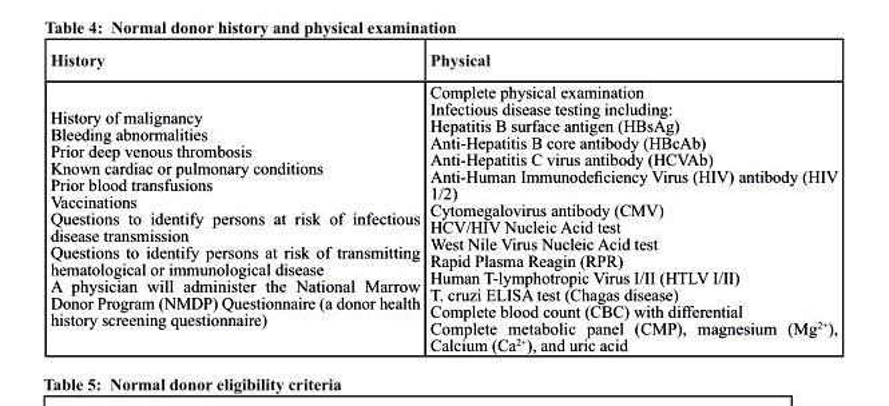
<table><thead><tr><td>History</td><td>Physical</td></tr></thead><tbody><tr><td>History of malignancy Bleeding abnormalities Prior deep venous thrombosis Known cardiac or pulmonary conditions Prior blood transfusions Vaccinations Questions to identify persons at risk of infectious disease transmission Questions to identify persons at risk of transmitting hematological or immunological disease A physician will administer the National Marrow Donor Program (NMDP) Questionnaire (a donor health history screening questionnaire)</td><td>Complete physical examination Infectious disease testing including: Hepatitis B surface antigen (HBsAg) Anti-Hepatitis B core antibody (HBcAb) Anti-Hepatitis C virus antibody (HCVAb) Anti-Human Immunodeficiency Virus (HIV) antibody (HIV 1/2) Cytomegalovirus antibody (CMV) HCV/HIV Nucleic Acid test West Nile Virus Nucleic Acid test Rapid Plasma Reagin (RPR) Human T-lymphotropic Virus I/II (HTLV I/II) T. cruzi ELISA test (Chagas disease) Complete blood count (CBC) with differential Complete metabolic panel (CMP), magnesium (Mg<sup>2+</sup>), Calcium (Ca<sup>2+</sup>), and uric acid</td></tr></tbody></table>